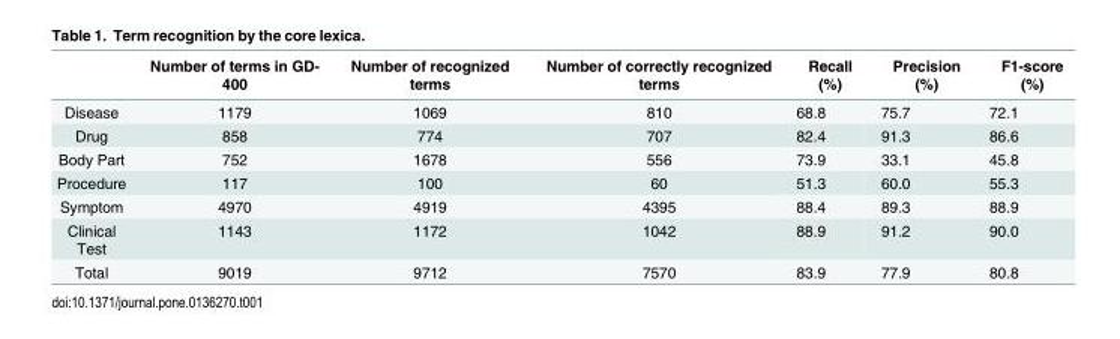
<table><thead><tr><td></td><td>Number of terms in GD- 400</td><td>Number of recognized terms</td><td>Number of correctly recognized terms</td><td>Recall (%)</td><td>Precision (%)</td><td>F1-score (%)</td></tr></thead><tbody><tr><td>Disease</td><td>1179</td><td>1069</td><td>810</td><td>68.8</td><td>75.7</td><td>72.1</td></tr><tr><td>Drug</td><td>858</td><td>774</td><td>707</td><td>82.4</td><td>91.3</td><td>86.6</td></tr><tr><td>Body Part</td><td>752</td><td>1678</td><td>556</td><td>73.9</td><td>33.1</td><td>45.8</td></tr><tr><td>Procedure</td><td>117</td><td>100</td><td>60</td><td>51.3</td><td>60.0</td><td>55.3</td></tr><tr><td>Symptom</td><td>4970</td><td>4919</td><td>4395</td><td>88.4</td><td>89.3</td><td>88.9</td></tr><tr><td>Clinical Test</td><td>1143</td><td>1172</td><td>1042</td><td>88.9</td><td>91.2</td><td>90.0</td></tr><tr><td>Total</td><td>9019</td><td>9712</td><td>7570</td><td>83.9</td><td>77.9</td><td>80.8</td></tr></tbody></table>